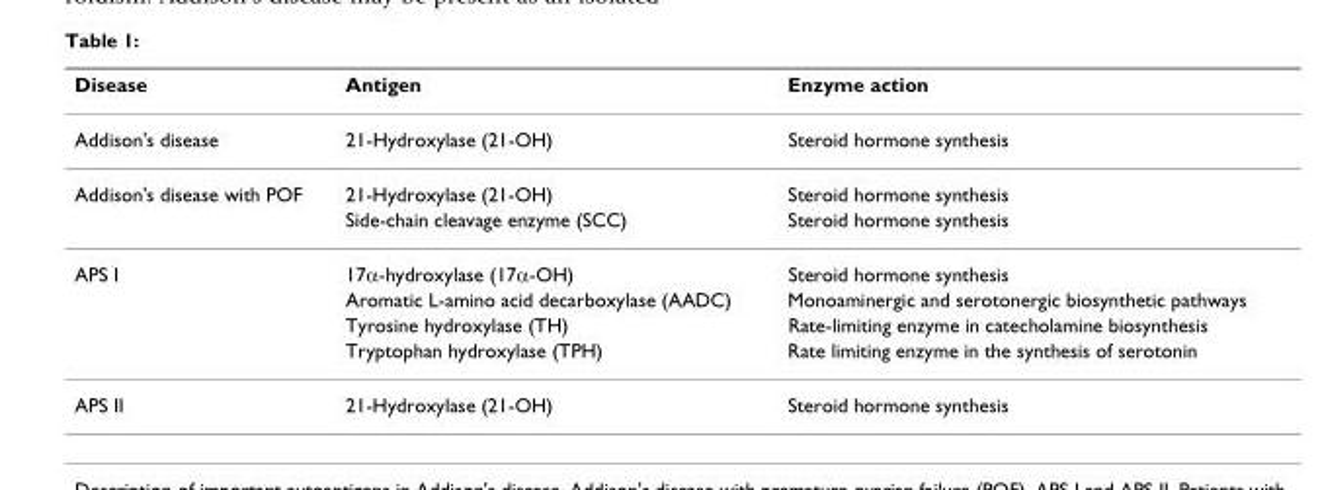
<table><thead><tr><td>Disease</td><td>Antigen</td><td>Enzyme action</td></tr></thead><tbody><tr><td>Addison&#x27;s disease</td><td>21-Hydroxylase (21-OH)</td><td>Steroid hormone synthesis</td></tr><tr><td rowspan="2">Addison&#x27;s disease with POF</td><td>21-Hydroxylase (21-OH)</td><td>Steroid hormone synthesis</td></tr><tr><td>Side-chain cleavage enzyme (SCC)</td><td>Steroid hormone synthesis</td></tr><tr><td rowspan="4">APS I</td><td>17α-hydroxylase (17α-OH)</td><td>Steroid hormone synthesis</td></tr><tr><td>Aromatic L-amino acid decarboxylase (AADC)</td><td>Monoaminergic and serotonergic biosynthetic pathways</td></tr><tr><td>Tyrosine hydroxylase (TH)</td><td>Rate-limiting enzyme in catecholamine biosynthesis</td></tr><tr><td>Tryptophan hydroxylase (TPH)</td><td>Rate limiting enzyme in the synthesis of serotonin</td></tr><tr><td>APS II</td><td>21-Hydroxylase (21-OH)</td><td>Steroid hormone synthesis</td></tr></tbody></table>